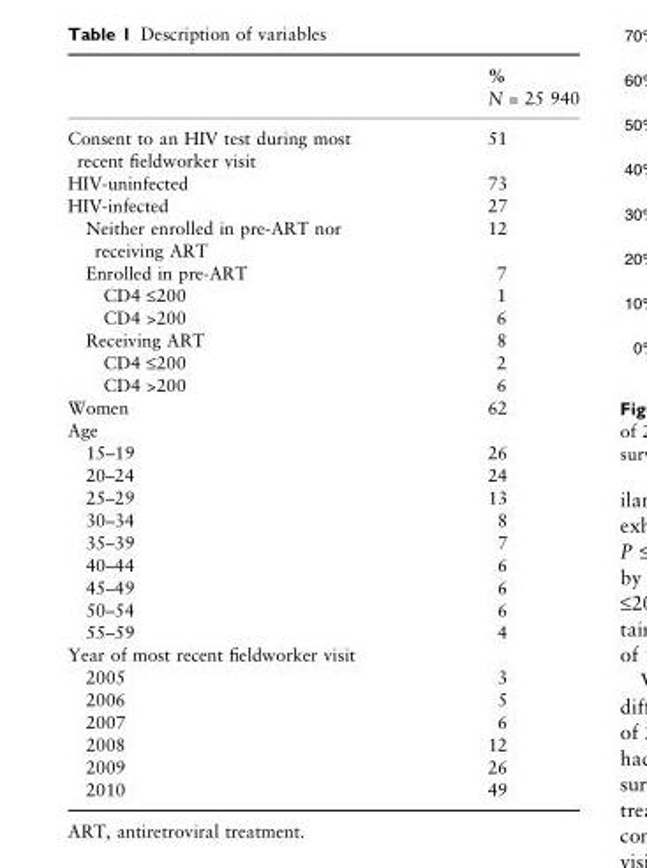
<table><thead><tr><td></td><td>% N = 25 940</td></tr></thead><tbody><tr><td>Consent to an HIV test during most recent fieldworker visit</td><td>51</td></tr><tr><td>HIV-uninfected</td><td>73</td></tr><tr><td>HIV-infected</td><td>27</td></tr><tr><td>Neither enrolled in pre-ART nor receiving ART</td><td>12</td></tr><tr><td>Enrolled in pre-ART</td><td>7</td></tr><tr><td>CD4 ≤200</td><td>1</td></tr><tr><td>CD4 &gt;200</td><td>6</td></tr><tr><td>Receiving ART</td><td>8</td></tr><tr><td>CD4 ≤200</td><td>2</td></tr><tr><td>CD4 &gt;200</td><td>6</td></tr><tr><td>Women</td><td>62</td></tr><tr><td colspan="2">Age</td></tr><tr><td>15–19</td><td>26</td></tr><tr><td>20–24</td><td>24</td></tr><tr><td>25–29</td><td>13</td></tr><tr><td>30–34</td><td>8</td></tr><tr><td>35–39</td><td>7</td></tr><tr><td>40–44</td><td>6</td></tr><tr><td>45–49</td><td>6</td></tr><tr><td>50–54</td><td>6</td></tr><tr><td>55–59</td><td>4</td></tr><tr><td colspan="2">Year of most recent fieldworker visit</td></tr><tr><td>2005</td><td>3</td></tr><tr><td>2006</td><td>5</td></tr><tr><td>2007</td><td>6</td></tr><tr><td>2008</td><td>12</td></tr><tr><td>2009</td><td>26</td></tr><tr><td>2010</td><td>49</td></tr></tbody></table>